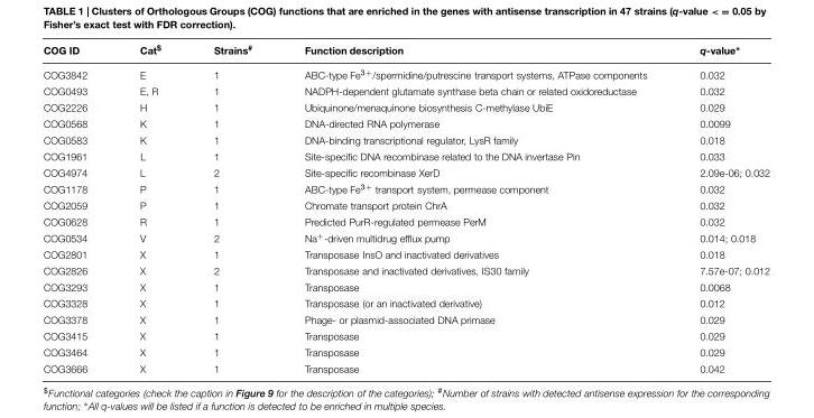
<table><thead><tr><td>COG ID</td><td>Cat<sup>$</sup></td><td>Strains<sup>#</sup></td><td>Function description</td><td>q-value∗</td></tr></thead><tbody><tr><td>COG3842</td><td>E</td><td>1</td><td>ABC-type Fe<sup>3+</sup>/spermidine/putrescine transport systems, ATPase components</td><td>0.032</td></tr><tr><td>COG0493</td><td>E, R</td><td>1</td><td>NADPH-dependent glutamate synthase beta chain or related oxidoreductase</td><td>0.032</td></tr><tr><td>COG2226</td><td>H</td><td>1</td><td>Ubiquinone/menaquinone biosynthesis C-methylase UbiE</td><td>0.029</td></tr><tr><td>COG0568</td><td>K</td><td>1</td><td>DNA-directed RNA polymerase</td><td>0.0099</td></tr><tr><td>COG0583</td><td>K</td><td>1</td><td>DNA-binding transcriptional regulator, LysR family</td><td>0.018</td></tr><tr><td>COG1961</td><td>L</td><td>1</td><td>Site-specific DNA recombinase related to the DNA invertase Pin</td><td>0.033</td></tr><tr><td>COG4974</td><td>L</td><td>2</td><td>Site-specific recombinase XerD</td><td>2.09e-06; 0.032</td></tr><tr><td>COG1178</td><td>P</td><td>1</td><td>ABC-type Fe<sup>3+</sup> transport system, permease component</td><td>0.032</td></tr><tr><td>COG2059</td><td>P</td><td>1</td><td>Chromate transport protein ChrA</td><td>0.032</td></tr><tr><td>COG0628</td><td>R</td><td>1</td><td>Predicted PurR-regulated permease PerM</td><td>0.032</td></tr><tr><td>COG0534</td><td>V</td><td>2</td><td>Na<sup>+</sup>-driven multidrug efflux pump</td><td>0.014; 0.018</td></tr><tr><td>COG2801</td><td>X</td><td>1</td><td>Transposase InsO and inactivated derivatives</td><td>0.018</td></tr><tr><td>COG2826</td><td>X</td><td>2</td><td>Transposase and inactivated derivatives, IS30 family</td><td>7.57e-07; 0.012</td></tr><tr><td>COG3293</td><td>X</td><td>1</td><td>Transposase</td><td>0.0068</td></tr><tr><td>COG3328</td><td>X</td><td>1</td><td>Transposase (or an inactivated derivative)</td><td>0.012</td></tr><tr><td>COG3378</td><td>X</td><td>1</td><td>Phage- or plasmid-associated DNA primase</td><td>0.029</td></tr><tr><td>COG3415</td><td>X</td><td>1</td><td>Transposase</td><td>0.029</td></tr><tr><td>COG3464</td><td>X</td><td>1</td><td>Transposase</td><td>0.029</td></tr><tr><td>COG3666</td><td>X</td><td>1</td><td>Transposase</td><td>0.042</td></tr></tbody></table>